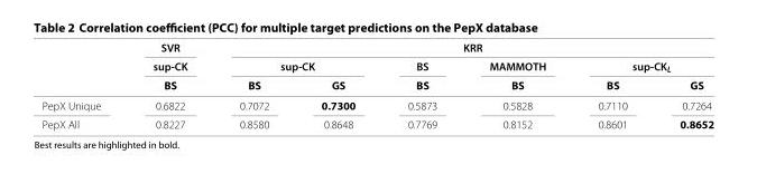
<table><thead><tr><td rowspan="3"></td><td rowspan="3">SVR sup-CK BS</td><td colspan="6">KRR</td></tr><tr><td colspan="2">sup-CK</td><td rowspan="2">BS BS</td><td rowspan="2">MAMMOTH BS</td><td colspan="2">sup-CK<sub>L</sub></td></tr><tr><td>BS</td><td>GS</td><td>BS</td><td>GS</td></tr></thead><tbody><tr><td>PepX Unique</td><td>0.6822</td><td>0.7072</td><td>0.7300</td><td>0.5873</td><td>0.5828</td><td>0.7110</td><td>0.7264</td></tr><tr><td>PepX All</td><td>0.8227</td><td>0.8580</td><td>0.8648</td><td>0.7769</td><td>0.8152</td><td>0.8601</td><td>0.8652</td></tr></tbody></table>